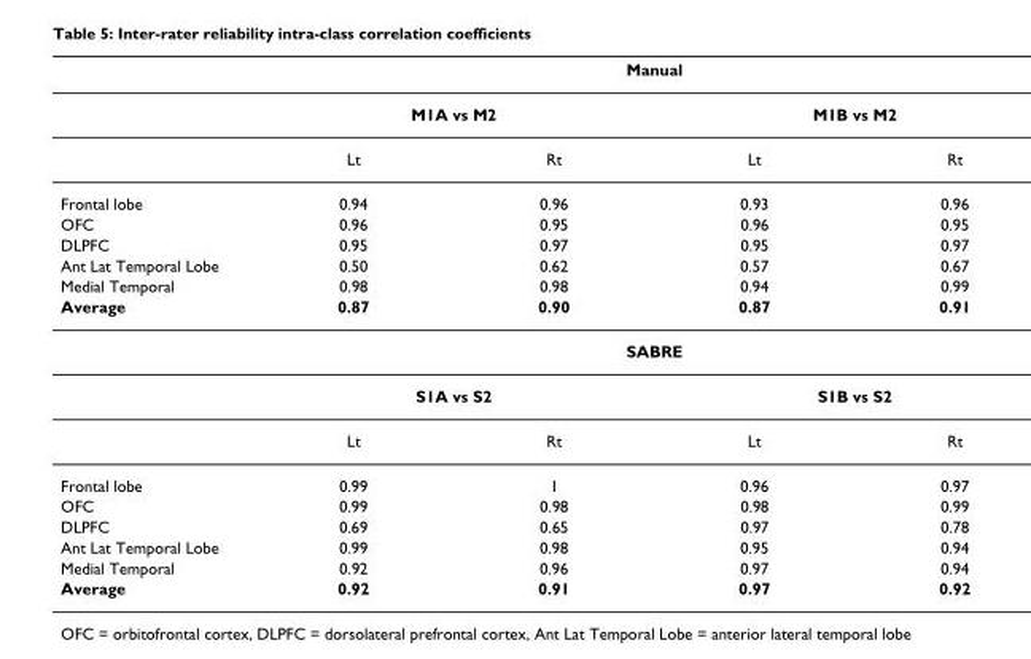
<table><thead><tr><td rowspan="3"></td><td colspan="4">Manual</td></tr><tr><td colspan="2">M1A vs M2</td><td colspan="2">M1B vs M2</td></tr><tr><td>Lt</td><td>Rt</td><td>Lt</td><td>Rt</td></tr></thead><tbody><tr><td>Frontal lobe</td><td>0.94</td><td>0.96</td><td>0.93</td><td>0.96</td></tr><tr><td>OFC</td><td>0.96</td><td>0.95</td><td>0.96</td><td>0.95</td></tr><tr><td>DLPFC</td><td>0.95</td><td>0.97</td><td>0.95</td><td>0.97</td></tr><tr><td>Ant Lat Temporal Lobe</td><td>0.50</td><td>0.62</td><td>0.57</td><td>0.67</td></tr><tr><td>Medial Temporal</td><td>0.98</td><td>0.98</td><td>0.94</td><td>0.99</td></tr><tr><td rowspan="4">Average</td><td>0.87</td><td>0.90</td><td>0.87</td><td>0.91</td></tr><tr><td colspan="4">SABRE</td></tr><tr><td colspan="2">S1A vs S2</td><td colspan="2">S1B vs S2</td></tr><tr><td>Lt</td><td>Rt</td><td>Lt</td><td>Rt</td></tr><tr><td>Frontal lobe</td><td>0.99</td><td>1</td><td>0.96</td><td>0.97</td></tr><tr><td>OFC</td><td>0.99</td><td>0.98</td><td>0.98</td><td>0.99</td></tr><tr><td>DLPFC</td><td>0.69</td><td>0.65</td><td>0.97</td><td>0.78</td></tr><tr><td>Ant Lat Temporal Lobe</td><td>0.99</td><td>0.98</td><td>0.95</td><td>0.94</td></tr><tr><td>Medial Temporal</td><td>0.92</td><td>0.96</td><td>0.97</td><td>0.94</td></tr><tr><td>Average</td><td>0.92</td><td>0.91</td><td>0.97</td><td>0.92</td></tr></tbody></table>